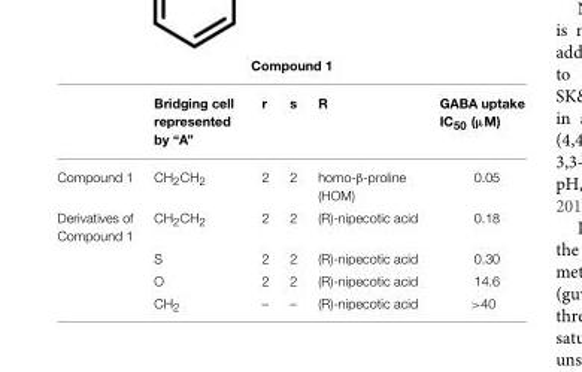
<table><thead><tr><td colspan="6">Compound 1</td></tr><tr><td></td><td>Bridging cell represented by “A”</td><td>r</td><td>s</td><td>R</td><td>GABA uptake IC<sub>50</sub> (µM)</td></tr></thead><tbody><tr><td>Compound 1</td><td>CH<sub>2</sub>CH<sub>2</sub></td><td>2</td><td>2</td><td>homo-β-proline (HOM)</td><td>0.05</td></tr><tr><td rowspan="4">Derivatives of Compound 1</td><td>CH<sub>2</sub>CH<sub>2</sub></td><td>2</td><td>2</td><td>(R)-nipecotic acid</td><td>0.18</td></tr><tr><td>S</td><td>2</td><td>2</td><td>(R)-nipecotic acid</td><td>0.30</td></tr><tr><td>O</td><td>2</td><td>2</td><td>(R)-nipecotic acid</td><td>14.6</td></tr><tr><td>CH<sub>2</sub></td><td>–</td><td>–</td><td>(R)-nipecotic acid</td><td>&gt;40</td></tr></tbody></table>